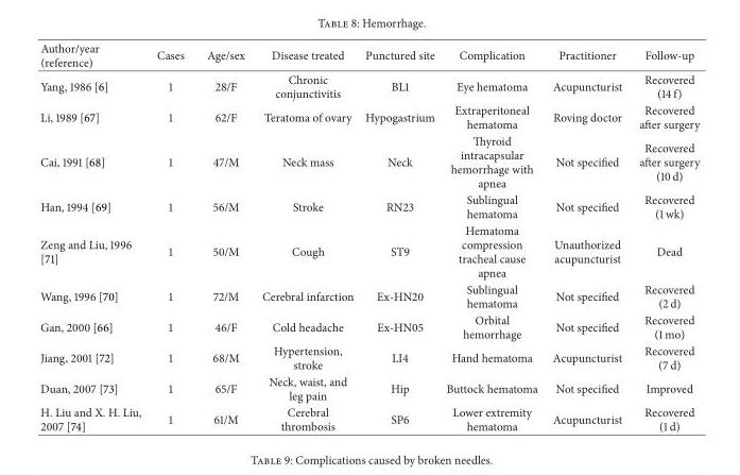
<table><thead><tr><td>Author/year (reference)</td><td>Cases</td><td>Age/sex</td><td>Disease treated</td><td>Punctured site</td><td>Complication</td><td>Practitioner</td><td>Follow-up</td></tr></thead><tbody><tr><td>Yang, 1986 [6]</td><td>1</td><td>28/F</td><td>Chronic conjunctivitis</td><td>BL1</td><td>Eye hematoma</td><td>Acupuncturist</td><td>Recovered (14 f)</td></tr><tr><td>Li, 1989 [67]</td><td>1</td><td>62/F</td><td>Teratoma of ovary</td><td>Hypogastrium</td><td>Extraperitoneal hematoma</td><td>Roving doctor</td><td>Recovered after surgery</td></tr><tr><td>Cai, 1991 [68]</td><td>1</td><td>47/M</td><td>Neck mass</td><td>Neck</td><td>Thyroid intracapsular hemorrhage with apnea</td><td>Not specified</td><td>Recovered after surgery (10 d)</td></tr><tr><td>Han, 1994 [69]</td><td>1</td><td>56/M</td><td>Stroke</td><td>RN23</td><td>Sublingual hematoma</td><td>Not specified</td><td>Recovered (1 wk)</td></tr><tr><td>Zeng and Liu, 1996 [71]</td><td>1</td><td>50/M</td><td>Cough</td><td>ST9</td><td>Hematoma compression tracheal cause apnea</td><td>Unauthorized acupuncturist</td><td>Dead</td></tr><tr><td>Wang, 1996 [70]</td><td>1</td><td>72/M</td><td>Cerebral infarction</td><td>Ex-HN20</td><td>Sublingual hematoma</td><td>Not specified</td><td>Recovered (2 d)</td></tr><tr><td>Gan, 2000 [66]</td><td>1</td><td>46/F</td><td>Cold headache</td><td>Ex-HN05</td><td>Orbital hemorrhage</td><td>Not specified</td><td>Recovered (1 mo)</td></tr><tr><td>Jiang, 2001 [72]</td><td>1</td><td>68/M</td><td>Hypertension, stroke</td><td>LI4</td><td>Hand hematoma</td><td>Acupuncturist</td><td>Recovered (7 d)</td></tr><tr><td>Duan, 2007 [73]</td><td>1</td><td>65/F</td><td>Neck, waist, and leg pain</td><td>Hip</td><td>Buttock hematoma</td><td>Not specified</td><td>Improved</td></tr><tr><td>H. Liu and X. H. Liu, 2007 [74]</td><td>1</td><td>61/M</td><td>Cerebral thrombosis</td><td>SP6</td><td>Lower extremity hematoma</td><td>Acupuncturist</td><td>Recovered (1 d)</td></tr></tbody></table>